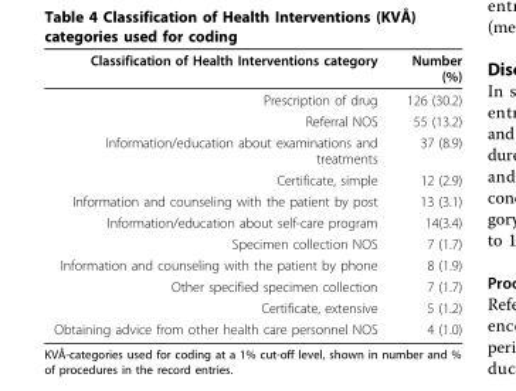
<table><thead><tr><td>Classification of Health Interventions category</td><td>Number (%)</td></tr></thead><tbody><tr><td>Prescription of drug</td><td>126 (30.2)</td></tr><tr><td>Referral NOS</td><td>55 (13.2)</td></tr><tr><td>Information/education about examinations and treatments</td><td>37 (8.9)</td></tr><tr><td>Certificate, simple</td><td>12 (2.9)</td></tr><tr><td>Information and counseling with the patient by post</td><td>13 (3.1)</td></tr><tr><td>Information/education about self-care program</td><td>14(3.4)</td></tr><tr><td>Specimen collection NOS</td><td>7 (1.7)</td></tr><tr><td>Information and counseling with the patient by phone</td><td>8 (1.9)</td></tr><tr><td>Other specified specimen collection</td><td>7 (1.7)</td></tr><tr><td>Certificate, extensive</td><td>5 (1.2)</td></tr><tr><td>Obtaining advice from other health care personnel NOS</td><td>4 (1.0)</td></tr></tbody></table>